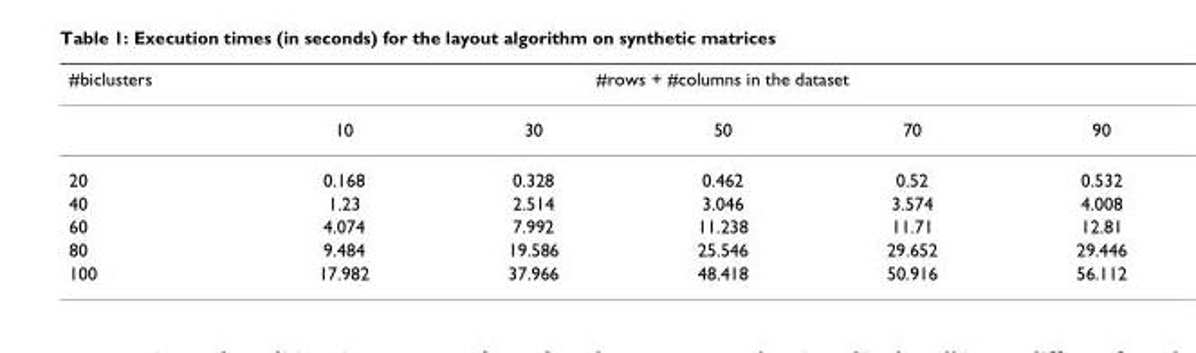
<table><thead><tr><td rowspan="2">#biclusters</td><td colspan="5">#rows + #columns in the dataset</td></tr><tr><td>10</td><td>30</td><td>50</td><td>70</td><td>90</td></tr></thead><tbody><tr><td>20</td><td>0.168</td><td>0.328</td><td>0.462</td><td>0.52</td><td>0.532</td></tr><tr><td>40</td><td>1.23</td><td>2.514</td><td>3.046</td><td>3.574</td><td>4.008</td></tr><tr><td>60</td><td>4.074</td><td>7.992</td><td>11.238</td><td>11.71</td><td>12.81</td></tr><tr><td>80</td><td>9.484</td><td>19.586</td><td>25.546</td><td>29.652</td><td>29.446</td></tr><tr><td>100</td><td>17.982</td><td>37.966</td><td>48.418</td><td>50.916</td><td>56.112</td></tr></tbody></table>